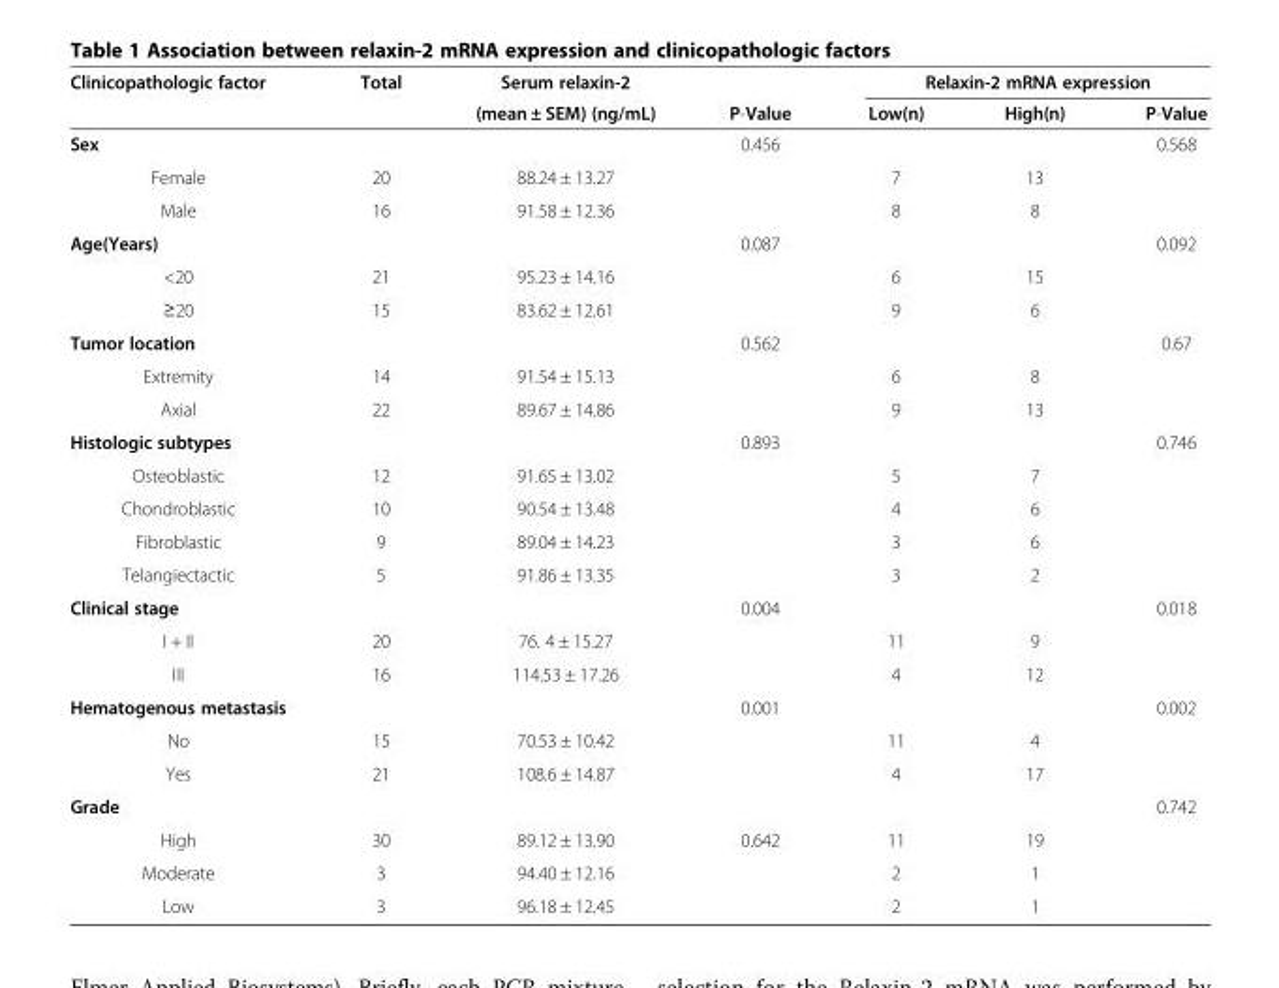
<table><thead><tr><td rowspan="2">Clinicopathologic factor</td><td rowspan="2">Total</td><td rowspan="2">Serum relaxin-2 (mean ± SEM) (ng/mL)</td><td rowspan="2">P-Value</td><td colspan="3">Relaxin-2 mRNA expression</td></tr><tr><td>Low(n)</td><td>High(n)</td><td>P-Value</td></tr></thead><tbody><tr><td>Sex</td><td></td><td></td><td>0.456</td><td></td><td></td><td>0.568</td></tr><tr><td>Female</td><td>20</td><td>88.24 ± 13.27</td><td></td><td>7</td><td>13</td><td></td></tr><tr><td>Male</td><td>16</td><td>91.58 ± 12.36</td><td></td><td>8</td><td>8</td><td></td></tr><tr><td>Age(Years)</td><td></td><td></td><td>0.087</td><td></td><td></td><td>0.092</td></tr><tr><td>&lt;20</td><td>21</td><td>95.23 ± 14.16</td><td></td><td>6</td><td>15</td><td></td></tr><tr><td>≥20</td><td>15</td><td>83.62 ± 12.61</td><td></td><td>9</td><td>6</td><td></td></tr><tr><td>Tumor location</td><td></td><td></td><td>0.562</td><td></td><td></td><td>0.67</td></tr><tr><td>Extremity</td><td>14</td><td>91.54 ± 15.13</td><td></td><td>6</td><td>8</td><td></td></tr><tr><td>Axial</td><td>22</td><td>89.67 ± 14.86</td><td></td><td>9</td><td>13</td><td></td></tr><tr><td>Histologic subtypes</td><td></td><td></td><td>0.893</td><td></td><td></td><td>0.746</td></tr><tr><td>Osteoblastic</td><td>12</td><td>91.65 ± 13.02</td><td></td><td>5</td><td>7</td><td></td></tr><tr><td>Chondroblastic</td><td>10</td><td>90.54 ± 13.48</td><td></td><td>4</td><td>6</td><td></td></tr><tr><td>Fibroblastic</td><td>9</td><td>89.04 ± 14.23</td><td></td><td>3</td><td>6</td><td></td></tr><tr><td>Telangiectactic</td><td>5</td><td>91.86 ± 13.35</td><td></td><td>3</td><td>2</td><td></td></tr><tr><td>Clinical stage</td><td></td><td></td><td>0.004</td><td></td><td></td><td>0.018</td></tr><tr><td>I + II</td><td>20</td><td>76. 4 ± 15.27</td><td></td><td>11</td><td>9</td><td></td></tr><tr><td>III</td><td>16</td><td>114.53 ± 17.26</td><td></td><td>4</td><td>12</td><td></td></tr><tr><td>Hematogenous metastasis</td><td></td><td></td><td>0.001</td><td></td><td></td><td>0.002</td></tr><tr><td>No</td><td>15</td><td>70.53 ± 10.42</td><td></td><td>11</td><td>4</td><td></td></tr><tr><td>Yes</td><td>21</td><td>108.6 ± 14.87</td><td></td><td>4</td><td>17</td><td></td></tr><tr><td>Grade</td><td></td><td></td><td></td><td></td><td></td><td>0.742</td></tr><tr><td>High</td><td>30</td><td>89.12 ± 13.90</td><td>0.642</td><td>11</td><td>19</td><td></td></tr><tr><td>Moderate</td><td>3</td><td>94.40 ± 12.16</td><td></td><td>2</td><td>1</td><td></td></tr><tr><td>Low</td><td>3</td><td>96.18 ± 12.45</td><td></td><td>2</td><td>1</td><td></td></tr></tbody></table>